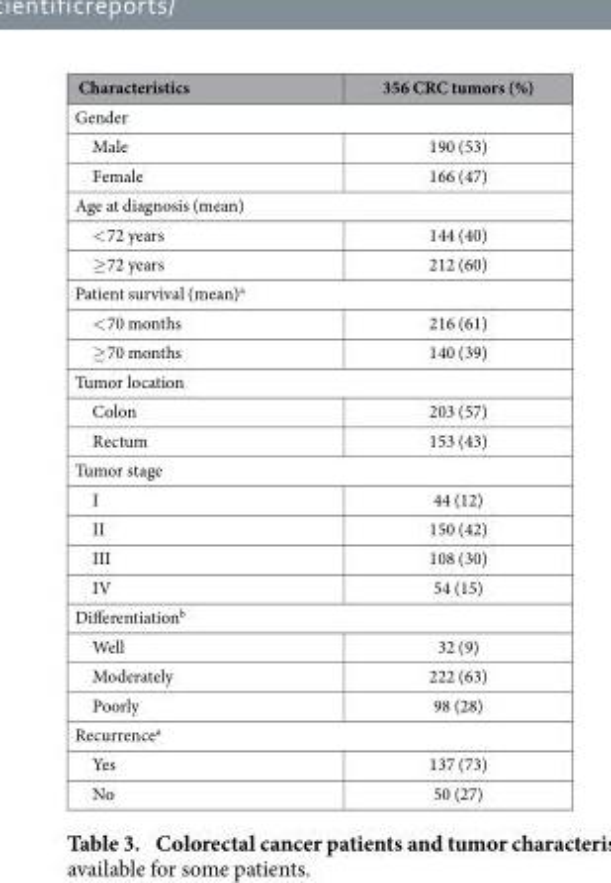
<table><thead><tr><td>Characteristics</td><td>356 CRC tumors (%)</td></tr></thead><tbody><tr><td colspan="2">Gender</td></tr><tr><td>Male</td><td>190 (53)</td></tr><tr><td>Female</td><td>166 (47)</td></tr><tr><td colspan="2">Age at diagnosis (mean)</td></tr><tr><td>&lt; 72 years</td><td>144 (40)</td></tr><tr><td>≥ 72 years</td><td>212 (60)</td></tr><tr><td colspan="2">Patient survival (mean)<sup>a</sup></td></tr><tr><td>&lt; 70 months</td><td>216 (61)</td></tr><tr><td>≥ 70 months</td><td>140 (39)</td></tr><tr><td colspan="2">Tumor location</td></tr><tr><td>Colon</td><td>203 (57)</td></tr><tr><td>Rectum</td><td>153 (43)</td></tr><tr><td colspan="2">Tumor stage</td></tr><tr><td>I</td><td>44 (12)</td></tr><tr><td>II</td><td>150 (42)</td></tr><tr><td>III</td><td>108 (30)</td></tr><tr><td>IV</td><td>54 (15)</td></tr><tr><td colspan="2">Differentiation<sup>b</sup></td></tr><tr><td>Well</td><td>32 (9)</td></tr><tr><td>Moderately</td><td>222 (63)</td></tr><tr><td>Poorly</td><td>98 (28)</td></tr><tr><td colspan="2">Recurrence<sup>a</sup></td></tr><tr><td>Yes</td><td>137 (73)</td></tr><tr><td>No</td><td>50 (27)</td></tr></tbody></table>